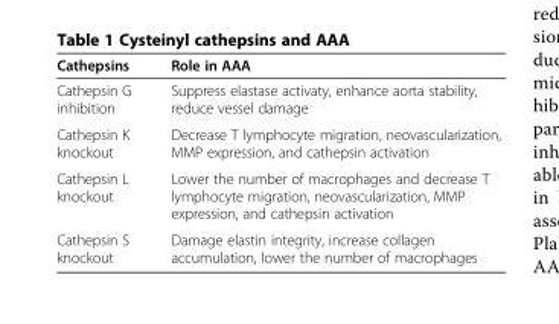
<table><thead><tr><td>Cathepsins</td><td>Role in AAA</td></tr></thead><tbody><tr><td>Cathepsin G inhibition</td><td>Suppress elastase activaty, enhance aorta stability, reduce vessel damage</td></tr><tr><td>Cathepsin K knockout</td><td>Decrease T lymphocyte migration, neovascularization, MMP expression, and cathepsin activation</td></tr><tr><td>Cathepsin L knockout</td><td>Lower the number of macrophages and decrease T lymphocyte migration, neovascularization, MMP expression, and cathepsin activation</td></tr><tr><td>Cathepsin S knockout</td><td>Damage elastin integrity, increase collagen accumulation, lower the number of macrophages</td></tr></tbody></table>